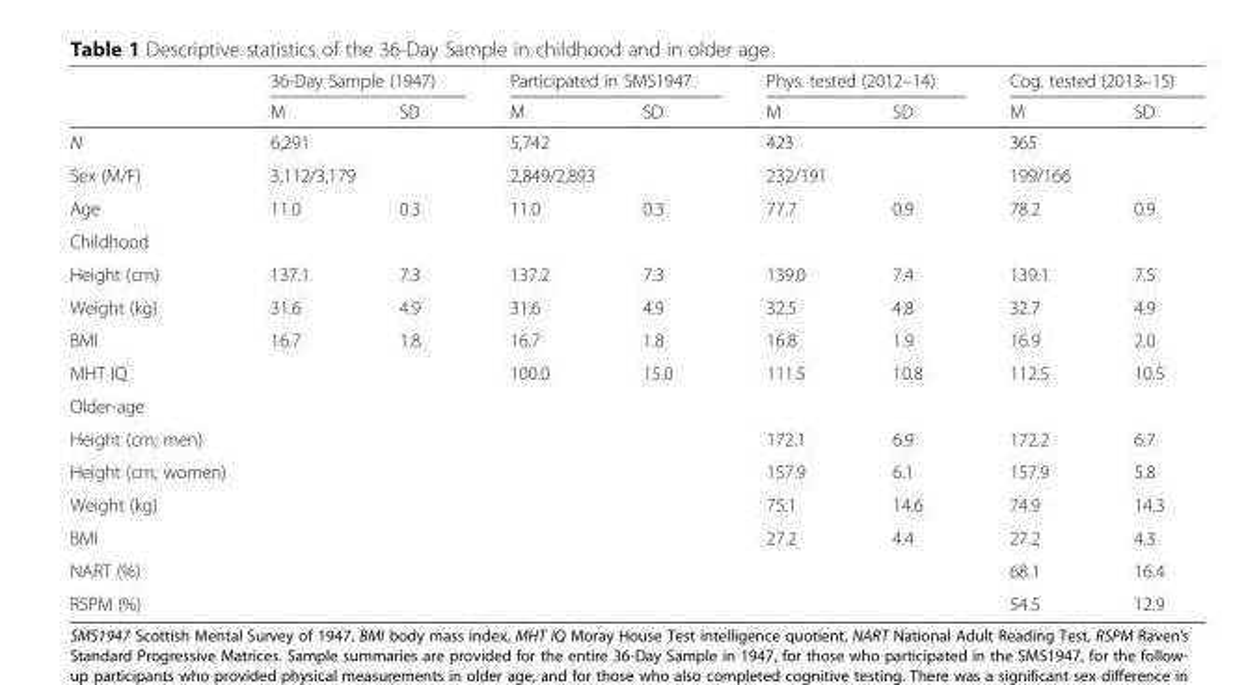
<table><thead><tr><td rowspan="2"></td><td colspan="2">36-Day Sample (1947)</td><td colspan="2">Participated in SMS1947</td><td colspan="2">Phys. tested (2012–14)</td><td colspan="2">Cog. tested (2013–15)</td></tr><tr><td>M</td><td>SD</td><td>M</td><td>SD</td><td>M</td><td>SD</td><td>M</td><td>SD</td></tr></thead><tbody><tr><td>N</td><td colspan="2">6,291</td><td colspan="2">5,742</td><td colspan="2">423</td><td colspan="2">365</td></tr><tr><td>Sex (M/F)</td><td colspan="2">3,112/3,179</td><td colspan="2">2,849/2,893</td><td colspan="2">232/191</td><td colspan="2">199/166</td></tr><tr><td>Age</td><td>11.0</td><td>0.3</td><td>11.0</td><td>0.3</td><td>77.7</td><td>0.9</td><td>78.2</td><td>0.9</td></tr><tr><td colspan="9">Childhood</td></tr><tr><td>Height (cm)</td><td>137.1</td><td>7.3</td><td>137.2</td><td>7.3</td><td>139.0</td><td>7.4</td><td>139.1</td><td>7.5</td></tr><tr><td>Weight (kg)</td><td>31.6</td><td>4.9</td><td>31.6</td><td>4.9</td><td>32.5</td><td>4.8</td><td>32.7</td><td>4.9</td></tr><tr><td>BMI</td><td>16.7</td><td>1.8</td><td>16.7</td><td>1.8</td><td>16.8</td><td>1.9</td><td>16.9</td><td>2.0</td></tr><tr><td>MHT IQ</td><td></td><td></td><td>100.0</td><td>15.0</td><td>111.5</td><td>10.8</td><td>112.5</td><td>10.5</td></tr><tr><td colspan="9">Older-age</td></tr><tr><td>Height (cm; men)</td><td></td><td></td><td></td><td></td><td>172.1</td><td>6.9</td><td>172.2</td><td>6.7</td></tr><tr><td>Height (cm; women)</td><td></td><td></td><td></td><td></td><td>157.9</td><td>6.1</td><td>157.9</td><td>5.8</td></tr><tr><td>Weight (kg)</td><td></td><td></td><td></td><td></td><td>75.1</td><td>14.6</td><td>74.9</td><td>14.3</td></tr><tr><td>BMI</td><td></td><td></td><td></td><td></td><td>27.2</td><td>4.4</td><td>27.2</td><td>4.3</td></tr><tr><td>NART (%)</td><td></td><td></td><td></td><td></td><td></td><td></td><td>68.1</td><td>16.4</td></tr><tr><td>RSPM (%)</td><td></td><td></td><td></td><td></td><td></td><td></td><td>54.5</td><td>12.9</td></tr></tbody></table>